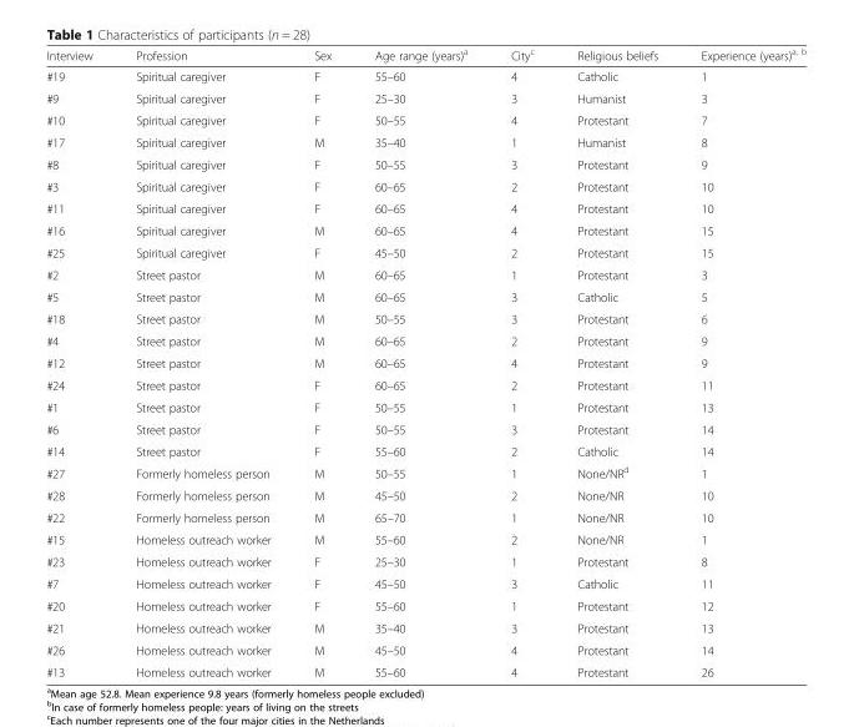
<table><thead><tr><td>Interview</td><td>Profession</td><td>Sex</td><td>Age range (years)<sup>a</sup></td><td>City<sup>c</sup></td><td>Religious beliefs</td><td>Experience (years)<sup>a, b</sup></td></tr></thead><tbody><tr><td>#19</td><td>Spiritual caregiver</td><td>F</td><td>55–60</td><td>4</td><td>Catholic</td><td>1</td></tr><tr><td>#9</td><td>Spiritual caregiver</td><td>F</td><td>25–30</td><td>3</td><td>Humanist</td><td>3</td></tr><tr><td>#10</td><td>Spiritual caregiver</td><td>F</td><td>50–55</td><td>4</td><td>Protestant</td><td>7</td></tr><tr><td>#17</td><td>Spiritual caregiver</td><td>M</td><td>35–40</td><td>1</td><td>Humanist</td><td>8</td></tr><tr><td>#8</td><td>Spiritual caregiver</td><td>F</td><td>50–55</td><td>3</td><td>Protestant</td><td>9</td></tr><tr><td>#3</td><td>Spiritual caregiver</td><td>F</td><td>60–65</td><td>2</td><td>Protestant</td><td>10</td></tr><tr><td>#11</td><td>Spiritual caregiver</td><td>F</td><td>60–65</td><td>4</td><td>Protestant</td><td>10</td></tr><tr><td>#16</td><td>Spiritual caregiver</td><td>M</td><td>60–65</td><td>4</td><td>Protestant</td><td>15</td></tr><tr><td>#25</td><td>Spiritual caregiver</td><td>F</td><td>45–50</td><td>2</td><td>Protestant</td><td>15</td></tr><tr><td>#2</td><td>Street pastor</td><td>M</td><td>60–65</td><td>1</td><td>Protestant</td><td>3</td></tr><tr><td>#5</td><td>Street pastor</td><td>M</td><td>60–65</td><td>3</td><td>Catholic</td><td>5</td></tr><tr><td>#18</td><td>Street pastor</td><td>M</td><td>50–55</td><td>3</td><td>Protestant</td><td>6</td></tr><tr><td>#4</td><td>Street pastor</td><td>M</td><td>60–65</td><td>2</td><td>Protestant</td><td>9</td></tr><tr><td>#12</td><td>Street pastor</td><td>M</td><td>60–65</td><td>4</td><td>Protestant</td><td>9</td></tr><tr><td>#24</td><td>Street pastor</td><td>F</td><td>60–65</td><td>2</td><td>Protestant</td><td>11</td></tr><tr><td>#1</td><td>Street pastor</td><td>F</td><td>50–55</td><td>1</td><td>Protestant</td><td>13</td></tr><tr><td>#6</td><td>Street pastor</td><td>F</td><td>50–55</td><td>3</td><td>Protestant</td><td>14</td></tr><tr><td>#14</td><td>Street pastor</td><td>F</td><td>55–60</td><td>2</td><td>Catholic</td><td>14</td></tr><tr><td>#27</td><td>Formerly homeless person</td><td>M</td><td>50–55</td><td>1</td><td>None/NR<sup>d</sup></td><td>1</td></tr><tr><td>#28</td><td>Formerly homeless person</td><td>M</td><td>45–50</td><td>2</td><td>None/NR</td><td>10</td></tr><tr><td>#22</td><td>Formerly homeless person</td><td>M</td><td>65–70</td><td>1</td><td>None/NR</td><td>10</td></tr><tr><td>#15</td><td>Homeless outreach worker</td><td>M</td><td>55–60</td><td>2</td><td>None/NR</td><td>1</td></tr><tr><td>#23</td><td>Homeless outreach worker</td><td>F</td><td>25–30</td><td>1</td><td>Protestant</td><td>8</td></tr><tr><td>#7</td><td>Homeless outreach worker</td><td>F</td><td>45–50</td><td>3</td><td>Catholic</td><td>11</td></tr><tr><td>#20</td><td>Homeless outreach worker</td><td>F</td><td>55–60</td><td>1</td><td>Protestant</td><td>12</td></tr><tr><td>#21</td><td>Homeless outreach worker</td><td>M</td><td>35–40</td><td>3</td><td>Protestant</td><td>13</td></tr><tr><td>#26</td><td>Homeless outreach worker</td><td>M</td><td>45–50</td><td>4</td><td>Protestant</td><td>14</td></tr><tr><td>#13</td><td>Homeless outreach worker</td><td>M</td><td>55–60</td><td>4</td><td>Protestant</td><td>26</td></tr></tbody></table>